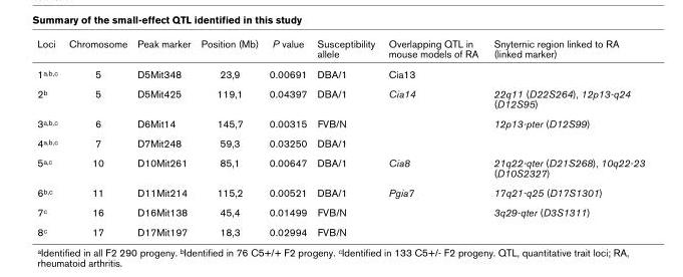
<table><thead><tr><td>Loci</td><td>Chromosome</td><td>Peak marker</td><td>Position (Mb)</td><td>P value</td><td>Susceptibility allele</td><td>Overlapping QTL in mouse models of RA</td><td>Snyternic region linked to RA (linked marker)</td></tr></thead><tbody><tr><td>1a,b,c</td><td>5</td><td>D5Mit348</td><td>23,9</td><td>0.00691</td><td>DBA/1</td><td>Cia13</td><td></td></tr><tr><td>2b</td><td>5</td><td>D5Mit425</td><td>119,1</td><td>0.04397</td><td>DBA/1</td><td>Cia14</td><td>22q11 (D22S264), 12p13-q24 (D12S95)</td></tr><tr><td>3a,b,c</td><td>6</td><td>D6Mit14</td><td>145,7</td><td>0.00315</td><td>FVB/N</td><td></td><td>12p13-pter (D12S99)</td></tr><tr><td>4a,b,c</td><td>7</td><td>D7Mit248</td><td>59,3</td><td>0.03250</td><td>DBA/1</td><td></td><td></td></tr><tr><td>5a,c</td><td>10</td><td>D10Mit261</td><td>85,1</td><td>0.00647</td><td>DBA/1</td><td>Cia8</td><td>21q22-qter (D21S268), 10q22-23 (D10S2327)</td></tr><tr><td>6b,c</td><td>11</td><td>D11Mit214</td><td>115,2</td><td>0.00521</td><td>DBA/1</td><td>Pgia7</td><td>17q21-q25 (D17S1301)</td></tr><tr><td>7c</td><td>16</td><td>D16Mit138</td><td>45,4</td><td>0.01499</td><td>FVB/N</td><td></td><td>3q29-qter (D3S1311)</td></tr><tr><td>8c</td><td>17</td><td>D17Mit197</td><td>18,3</td><td>0.02994</td><td>FVB/N</td><td></td><td></td></tr></tbody></table>